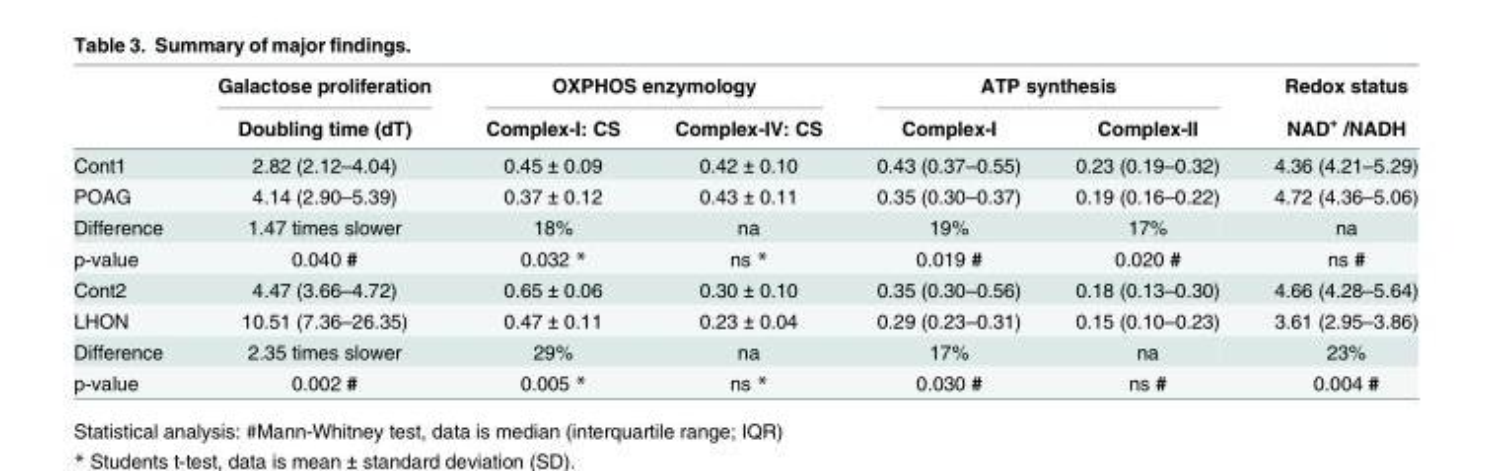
<table><thead><tr><td rowspan="2"></td><td rowspan="2">Galactose proliferation Doubling time (dT)</td><td colspan="2">OXPHOS enzymology</td><td colspan="2">ATP synthesis</td><td rowspan="2">Redox status NAD<sup>+</sup> /NADH</td></tr><tr><td>Complex-I: CS</td><td>Complex-IV: CS</td><td>Complex-I</td><td>Complex-II</td></tr></thead><tbody><tr><td>Cont1</td><td>2.82 (2.12–4.04)</td><td>0.45 ± 0.09</td><td>0.42 ± 0.10</td><td>0.43 (0.37–0.55)</td><td>0.23 (0.19–0.32)</td><td>4.36 (4.21–5.29)</td></tr><tr><td>POAG</td><td>4.14 (2.90–5.39)</td><td>0.37 ± 0.12</td><td>0.43 ± 0.11</td><td>0.35 (0.30–0.37)</td><td>0.19 (0.16–0.22)</td><td>4.72 (4.36–5.06)</td></tr><tr><td>Difference</td><td>1.47 times slower</td><td>18%</td><td>na</td><td>19%</td><td>17%</td><td>na</td></tr><tr><td>p-value</td><td>0.040 #</td><td>0.032 *</td><td>ns *</td><td>0.019 #</td><td>0.020 #</td><td>ns #</td></tr><tr><td>Cont2</td><td>4.47 (3.66–4.72)</td><td>0.65 ± 0.06</td><td>0.30 ± 0.10</td><td>0.35 (0.30–0.56)</td><td>0.18 (0.13–0.30)</td><td>4.66 (4.28–5.64)</td></tr><tr><td>LHON</td><td>10.51 (7.36–26.35)</td><td>0.47 ± 0.11</td><td>0.23 ± 0.04</td><td>0.29 (0.23–0.31)</td><td>0.15 (0.10–0.23)</td><td>3.61 (2.95–3.86)</td></tr><tr><td>Difference</td><td>2.35 times slower</td><td>29%</td><td>na</td><td>17%</td><td>na</td><td>23%</td></tr><tr><td>p-value</td><td>0.002 #</td><td>0.005 *</td><td>ns *</td><td>0.030 #</td><td>ns #</td><td>0.004 #</td></tr></tbody></table>